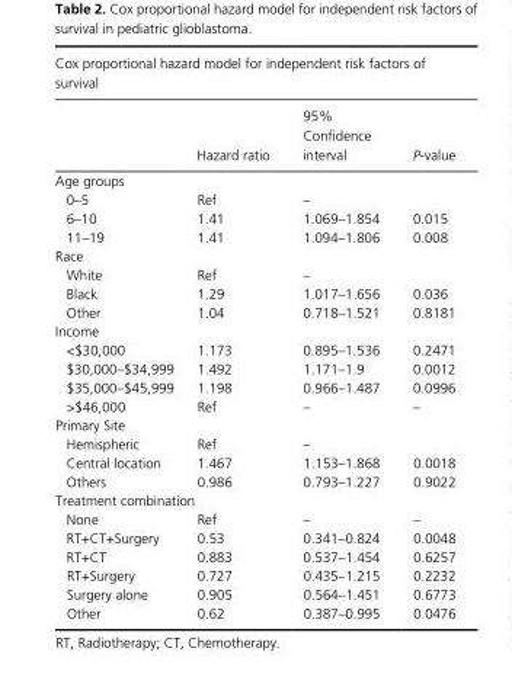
<table><thead><tr><td colspan="4">Cox proportional hazard model for independent risk factors of survival</td></tr><tr><td></td><td>Hazard ratio</td><td>95% Confidence interval</td><td>P- value</td></tr></thead><tbody><tr><td colspan="4">Age groups</td></tr><tr><td>0–5</td><td>Ref</td><td>–</td><td></td></tr><tr><td>6–10</td><td>1.41</td><td>1.069–1.854</td><td>0.015</td></tr><tr><td>11–19</td><td>1.41</td><td>1.094–1.806</td><td>0.008</td></tr><tr><td colspan="4">Race</td></tr><tr><td>White</td><td>Ref</td><td>–</td><td></td></tr><tr><td>Black</td><td>1.29</td><td>1.017–1.656</td><td>0.036</td></tr><tr><td>Other</td><td>1.04</td><td>0.718–1.521</td><td>0.8181</td></tr><tr><td colspan="4">Income</td></tr><tr><td>&lt;$30,000</td><td>1.173</td><td>0.895–1.536</td><td>0.2471</td></tr><tr><td>$30,000–$34,999</td><td>1.492</td><td>1.171–1.9</td><td>0.0012</td></tr><tr><td>$35,000–$45,999</td><td>1.198</td><td>0.966–1.487</td><td>0.0996</td></tr><tr><td>&gt;$46,000</td><td>Ref</td><td>–</td><td>–</td></tr><tr><td colspan="4">Primary Site</td></tr><tr><td>Hemispheric</td><td>Ref</td><td>–</td><td></td></tr><tr><td>Central location</td><td>1.467</td><td>1.153–1.868</td><td>0.0018</td></tr><tr><td>Others</td><td>0.986</td><td>0.793–1.227</td><td>0.9022</td></tr><tr><td colspan="4">Treatment combination</td></tr><tr><td>None</td><td>Ref</td><td>–</td><td>–</td></tr><tr><td>RT+CT+Surgery</td><td>0.53</td><td>0.341–0.824</td><td>0.0048</td></tr><tr><td>RT+CT</td><td>0.883</td><td>0.537–1.454</td><td>0.6257</td></tr><tr><td>RT+Surgery</td><td>0.727</td><td>0.435–1.215</td><td>0.2232</td></tr><tr><td>Surgery alone</td><td>0.905</td><td>0.564–1.451</td><td>0.6773</td></tr><tr><td>Other</td><td>0.62</td><td>0.387–0.995</td><td>0.0476</td></tr></tbody></table>